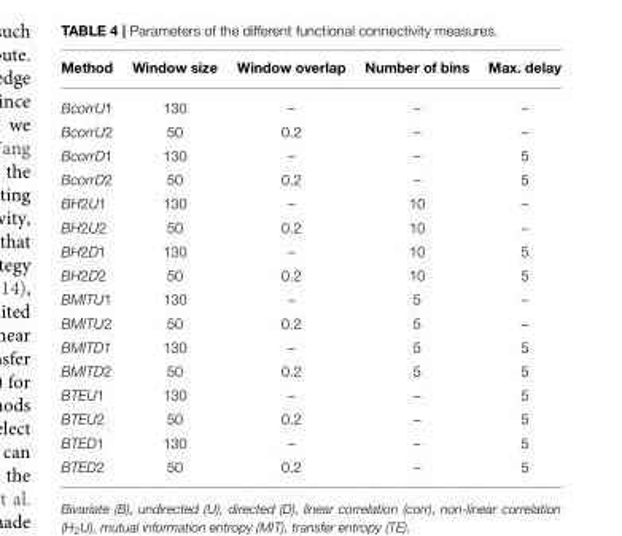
<table><thead><tr><td>Method</td><td>Window size</td><td>Window overlap</td><td>Number of bins</td><td>Max. delay</td></tr></thead><tbody><tr><td>BcorrU1</td><td>130</td><td>–</td><td>–</td><td>–</td></tr><tr><td>BcorrU2</td><td>50</td><td>0.2</td><td>–</td><td>–</td></tr><tr><td>BcorrD1</td><td>130</td><td>–</td><td>–</td><td>5</td></tr><tr><td>BcorrD2</td><td>50</td><td>0.2</td><td>–</td><td>5</td></tr><tr><td>BH2U1</td><td>130</td><td>–</td><td>10</td><td>–</td></tr><tr><td>BH2U2</td><td>50</td><td>0.2</td><td>10</td><td>–</td></tr><tr><td>BH2D1</td><td>130</td><td>–</td><td>10</td><td>5</td></tr><tr><td>BH2D2</td><td>50</td><td>0.2</td><td>10</td><td>5</td></tr><tr><td>BMITU1</td><td>130</td><td>–</td><td>5</td><td>–</td></tr><tr><td>BMITU2</td><td>50</td><td>0.2</td><td>5</td><td>–</td></tr><tr><td>BMITD1</td><td>130</td><td>–</td><td>5</td><td>5</td></tr><tr><td>BMITD2</td><td>50</td><td>0.2</td><td>5</td><td>5</td></tr><tr><td>BTEU1</td><td>130</td><td>–</td><td>–</td><td>5</td></tr><tr><td>BTEU2</td><td>50</td><td>0.2</td><td>–</td><td>5</td></tr><tr><td>BTED1</td><td>130</td><td>–</td><td>–</td><td>5</td></tr><tr><td>BTED2</td><td>50</td><td>0.2</td><td>–</td><td>5</td></tr></tbody></table>